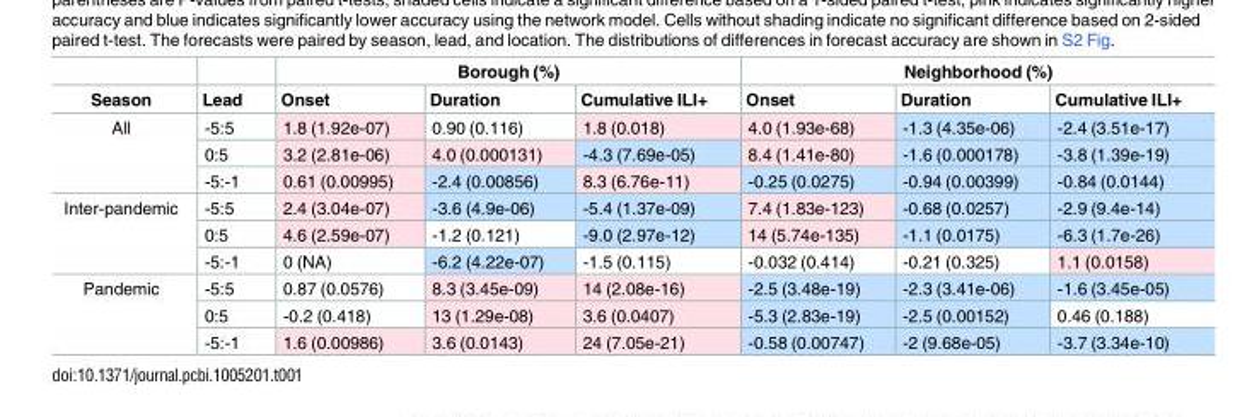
<table><thead><tr><td rowspan="2">Season</td><td rowspan="2">Lead</td><td colspan="3">Borough (%)</td><td colspan="3">Neighborhood (%)</td></tr><tr><td>Onset</td><td>Duration</td><td>Cumulative ILI+</td><td>Onset</td><td>Duration</td><td>Cumulative ILI+</td></tr></thead><tbody><tr><td rowspan="3">All</td><td>-5:5</td><td>1.8 (1.92e-07)</td><td>0.90 (0.116)</td><td>1.8 (0.018)</td><td>4.0 (1.93e-68)</td><td>-1.3 (4.35e-06)</td><td>-2.4 (3.51e-17)</td></tr><tr><td>0:5</td><td>3.2 (2.81e-06)</td><td>4.0 (0.000131)</td><td>-4.3 (7.69e-05)</td><td>8.4 (1.41e-80)</td><td>-1.6 (0.000178)</td><td>-3.8 (1.39e-19)</td></tr><tr><td>-5:-1</td><td>0.61 (0.00995)</td><td>-2.4 (0.00856)</td><td>8.3 (6.76e-11)</td><td>-0.25 (0.0275)</td><td>-0.94 (0.00399)</td><td>-0.84 (0.0144)</td></tr><tr><td rowspan="3">Inter-pandemic</td><td>-5:5</td><td>2.4 (3.04e-07)</td><td>-3.6 (4.9e-06)</td><td>-5.4 (1.37e-09)</td><td>7.4 (1.83e-123)</td><td>-0.68 (0.0257)</td><td>-2.9 (9.4e-14)</td></tr><tr><td>0:5</td><td>4.6 (2.59e-07)</td><td>-1.2 (0.121)</td><td>-9.0 (2.97e-12)</td><td>14 (5.74e-135)</td><td>-1.1 (0.0175)</td><td>-6.3 (1.7e-26)</td></tr><tr><td>-5:-1</td><td>0 (NA)</td><td>-6.2 (4.22e-07)</td><td>-1.5 (0.115)</td><td>-0.032 (0.414)</td><td>-0.21 (0.325)</td><td>1.1 (0.0158)</td></tr><tr><td rowspan="3">Pandemic</td><td>-5:5</td><td>0.87 (0.0576)</td><td>8.3 (3.45e-09)</td><td>14 (2.08e-16)</td><td>-2.5 (3.48e-19)</td><td>-2.3 (3.41e-06)</td><td>-1.6 (3.45e-05)</td></tr><tr><td>0:5</td><td>-0.2 (0.418)</td><td>13 (1.29e-08)</td><td>3.6 (0.0407)</td><td>-5.3 (2.83e-19)</td><td>-2.5 (0.00152)</td><td>0.46 (0.188)</td></tr><tr><td>-5:-1</td><td>1.6 (0.00986)</td><td>3.6 (0.0143)</td><td>24 (7.05e-21)</td><td>-0.58 (0.00747)</td><td>-2 (9.68e-05)</td><td>-3.7 (3.34e-10)</td></tr></tbody></table>